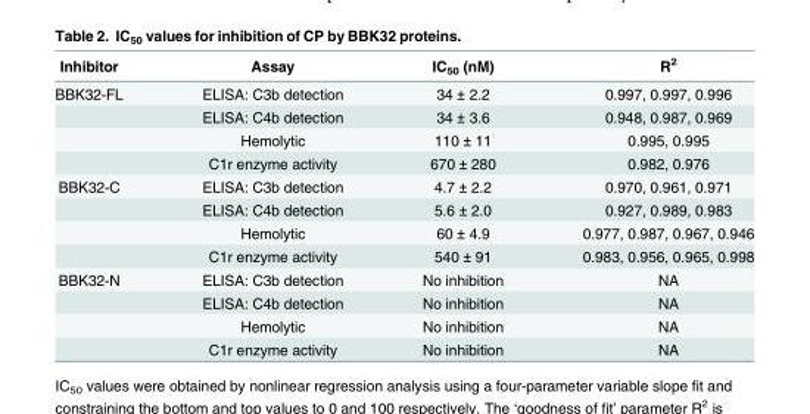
<table><thead><tr><td>Inhibitor</td><td>Assay</td><td>IC<sub>50</sub> (nM)</td><td>R<sup>2</sup></td></tr></thead><tbody><tr><td rowspan="4">BBK32-FL</td><td>ELISA: C3b detection</td><td>34 ± 2.2</td><td>0.997, 0.997, 0.996</td></tr><tr><td>ELISA: C4b detection</td><td>34 ± 3.6</td><td>0.948, 0.987, 0.969</td></tr><tr><td>Hemolytic</td><td>110 ± 11</td><td>0.995, 0.995</td></tr><tr><td>C1r enzyme activity</td><td>670 ± 280</td><td>0.982, 0.976</td></tr><tr><td rowspan="4">BBK32-C</td><td>ELISA: C3b detection</td><td>4.7 ± 2.2</td><td>0.970, 0.961, 0.971</td></tr><tr><td>ELISA: C4b detection</td><td>5.6 ± 2.0</td><td>0.927, 0.989, 0.983</td></tr><tr><td>Hemolytic</td><td>60 ± 4.9</td><td>0.977, 0.987, 0.967, 0.946</td></tr><tr><td>C1r enzyme activity</td><td>540 ± 91</td><td>0.983, 0.956, 0.965, 0.998</td></tr><tr><td rowspan="4">BBK32-N</td><td>ELISA: C3b detection</td><td>No inhibition</td><td>NA</td></tr><tr><td>ELISA: C4b detection</td><td>No inhibition</td><td>NA</td></tr><tr><td>Hemolytic</td><td>No inhibition</td><td>NA</td></tr><tr><td>C1r enzyme activity</td><td>No inhibition</td><td>NA</td></tr></tbody></table>